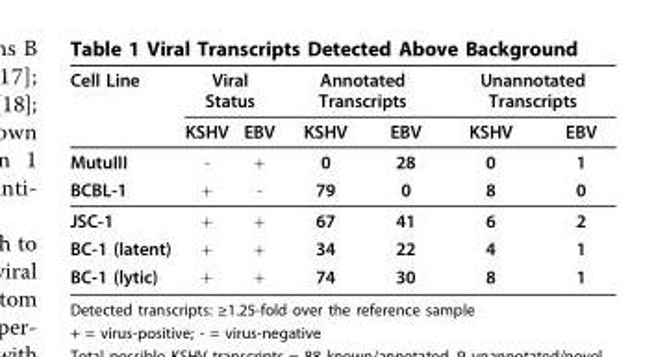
<table><thead><tr><td rowspan="2">Cell Line</td><td colspan="2">Viral Status</td><td colspan="2">Annotated Transcripts</td><td colspan="2">Unannotated Transcripts</td></tr><tr><td>KSHV</td><td>EBV</td><td>KSHV</td><td>EBV</td><td>KSHV</td><td>EBV</td></tr></thead><tbody><tr><td>MutuIII</td><td>-</td><td>+</td><td>0</td><td>28</td><td>0</td><td>1</td></tr><tr><td>BCBL-1</td><td>+</td><td>-</td><td>79</td><td>0</td><td>8</td><td>0</td></tr><tr><td>JSC-1</td><td>+</td><td>+</td><td>67</td><td>41</td><td>6</td><td>2</td></tr><tr><td>BC-1 (latent)</td><td>+</td><td>+</td><td>34</td><td>22</td><td>4</td><td>1</td></tr><tr><td>BC-1 (lytic)</td><td>+</td><td>+</td><td>74</td><td>30</td><td>8</td><td>1</td></tr></tbody></table>